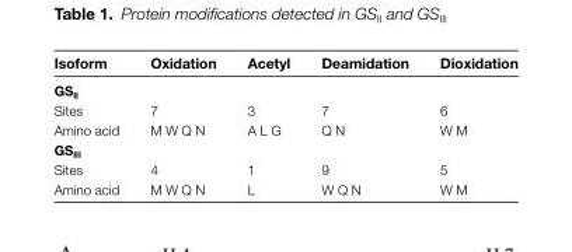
<table><thead><tr><td>Isoform</td><td>Oxidation</td><td>Acetyl</td><td>Deamidation</td><td>Dioxidation</td></tr></thead><tbody><tr><td colspan="5">GS<sub>II</sub></td></tr><tr><td>Sites</td><td>7</td><td>3</td><td>7</td><td>6</td></tr><tr><td>Amino acid</td><td>M W Q N</td><td>A L G</td><td>Q N</td><td>W M</td></tr><tr><td colspan="5">GS<sub>III</sub></td></tr><tr><td>Sites</td><td>4</td><td>1</td><td>9</td><td>5</td></tr><tr><td>Amino acid</td><td>M W Q N</td><td>L</td><td>W Q N</td><td>W M</td></tr></tbody></table>